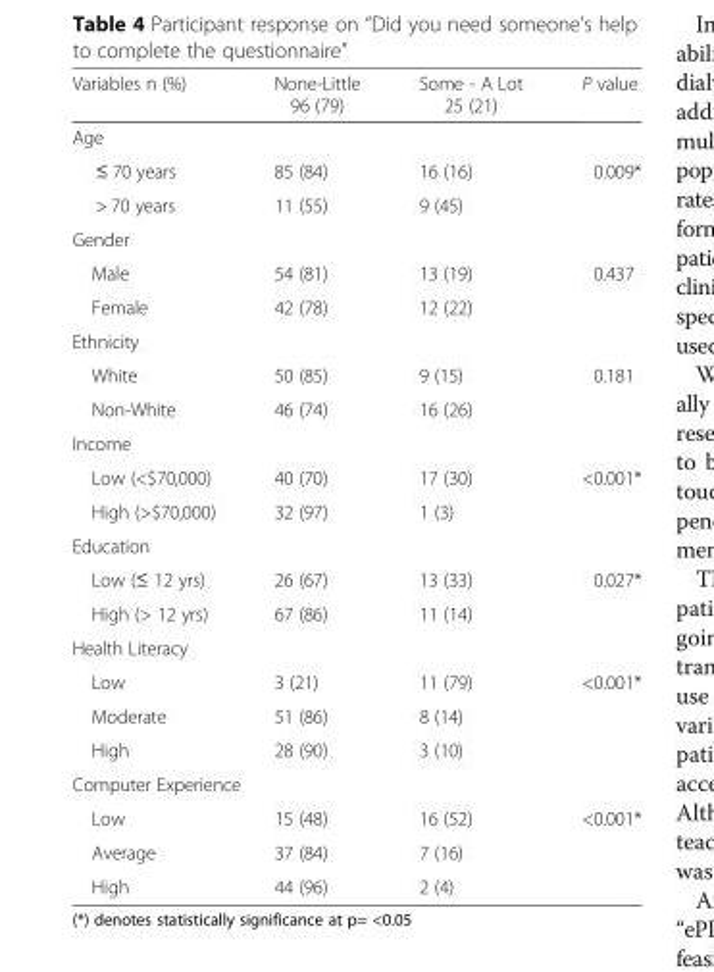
<table><thead><tr><td>Variables n (%)</td><td>None-Little 96 (79)</td><td>Some - A Lot 25 (21)</td><td>P value</td></tr></thead><tbody><tr><td colspan="4">Age</td></tr><tr><td>≤ 70 years</td><td>85 (84)</td><td>16 (16)</td><td rowspan="2">0.009*</td></tr><tr><td>&gt; 70 years</td><td>11 (55)</td><td>9 (45)</td></tr><tr><td colspan="4">Gender</td></tr><tr><td>Male</td><td>54 (81)</td><td>13 (19)</td><td rowspan="2">0.437</td></tr><tr><td>Female</td><td>42 (78)</td><td>12 (22)</td></tr><tr><td colspan="4">Ethnicity</td></tr><tr><td>White</td><td>50 (85)</td><td>9 (15)</td><td rowspan="2">0.181</td></tr><tr><td>Non-White</td><td>46 (74)</td><td>16 (26)</td></tr><tr><td colspan="4">Income</td></tr><tr><td>Low (&lt;$70,000)</td><td>40 (70)</td><td>17 (30)</td><td rowspan="2">&lt;0.001*</td></tr><tr><td>High (&gt;$70,000)</td><td>32 (97)</td><td>1 (3)</td></tr><tr><td colspan="4">Education</td></tr><tr><td>Low (≤ 12 yrs)</td><td>26 (67)</td><td>13 (33)</td><td rowspan="2">0.027*</td></tr><tr><td>High (&gt; 12 yrs)</td><td>67 (86)</td><td>11 (14)</td></tr><tr><td colspan="4">Health Literacy</td></tr><tr><td>Low</td><td>3 (21)</td><td>11 (79)</td><td rowspan="3">&lt;0.001*</td></tr><tr><td>Moderate</td><td>51 (86)</td><td>8 (14)</td></tr><tr><td>High</td><td>28 (90)</td><td>3 (10)</td></tr><tr><td colspan="4">Computer Experience</td></tr><tr><td>Low</td><td>15 (48)</td><td>16 (52)</td><td rowspan="3">&lt;0.001*</td></tr><tr><td>Average</td><td>37 (84)</td><td>7 (16)</td></tr><tr><td>High</td><td>44 (96)</td><td>2 (4)</td></tr></tbody></table>